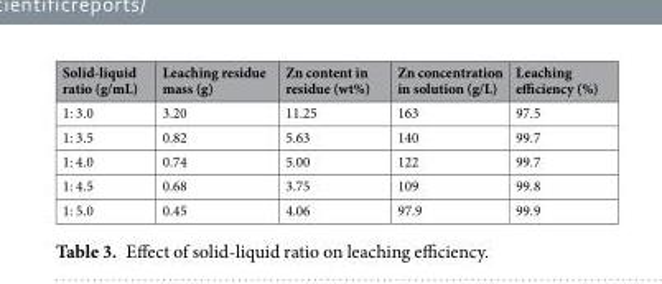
<table><thead><tr><td>Solid-liquid ratio (g/mL)</td><td>Leaching residue mass (g)</td><td>Zn content in residue (wt%)</td><td>Zn concentration in solution (g/L)</td><td>Leaching efficiency (%)</td></tr></thead><tbody><tr><td>1: 3.0</td><td>3.20</td><td>11.25</td><td>163</td><td>97.5</td></tr><tr><td>1: 3.5</td><td>0.82</td><td>5.63</td><td>140</td><td>99.7</td></tr><tr><td>1: 4.0</td><td>0.74</td><td>5.00</td><td>122</td><td>99.7</td></tr><tr><td>1: 4.5</td><td>0.68</td><td>3.75</td><td>109</td><td>99.8</td></tr><tr><td>1: 5.0</td><td>0.45</td><td>4.06</td><td>97.9</td><td>99.9</td></tr></tbody></table>